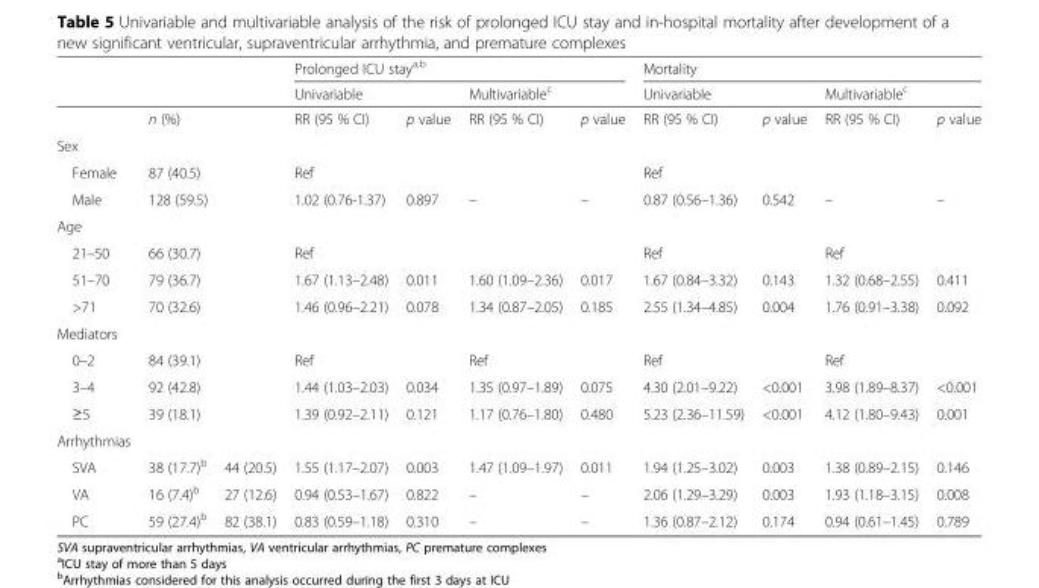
<table><thead><tr><td rowspan="3"></td><td rowspan="2"></td><td rowspan="2"></td><td colspan="4">Prolonged ICU stay<sup>a,b</sup></td><td colspan="4">Mortality</td></tr><tr><td colspan="2">Univariable</td><td colspan="2">Multivariable<sup>c</sup></td><td colspan="2">Univariable</td><td colspan="2">Multivariable<sup>c</sup></td></tr><tr><td colspan="2">n (%)</td><td>RR (95 % CI)</td><td>p value</td><td>RR (95 % CI)</td><td>p value</td><td>RR (95 % CI)</td><td>p value</td><td>RR (95 % CI)</td><td>p value</td></tr></thead><tbody><tr><td colspan="11">Sex</td></tr><tr><td>Female</td><td colspan="2">87 (40.5)</td><td>Ref</td><td></td><td></td><td></td><td>Ref</td><td></td><td></td><td></td></tr><tr><td>Male</td><td colspan="2">128 (59.5)</td><td>1.02 (0.76-1.37)</td><td>0.897</td><td>–</td><td>–</td><td>0.87 (0.56–1.36)</td><td>0.542</td><td>–</td><td>–</td></tr><tr><td colspan="11">Age</td></tr><tr><td>21–50</td><td colspan="2">66 (30.7)</td><td>Ref</td><td></td><td></td><td></td><td>Ref</td><td></td><td>Ref</td><td></td></tr><tr><td>51–70</td><td colspan="2">79 (36.7)</td><td>1.67 (1.13–2.48)</td><td>0.011</td><td>1.60 (1.09–2.36)</td><td>0.017</td><td>1.67 (0.84–3.32)</td><td>0.143</td><td>1.32 (0.68–2.55)</td><td>0.411</td></tr><tr><td>&gt;71</td><td colspan="2">70 (32.6)</td><td>1.46 (0.96–2.21)</td><td>0.078</td><td>1.34 (0.87–2.05)</td><td>0.185</td><td>2.55 (1.34–4.85)</td><td>0.004</td><td>1.76 (0.91–3.38)</td><td>0.092</td></tr><tr><td colspan="11">Mediators</td></tr><tr><td>0–2</td><td colspan="2">84 (39.1)</td><td>Ref</td><td></td><td>Ref</td><td></td><td>Ref</td><td></td><td>Ref</td><td></td></tr><tr><td>3–4</td><td colspan="2">92 (42.8)</td><td>1.44 (1.03–2.03)</td><td>0.034</td><td>1.35 (0.97–1.89)</td><td>0.075</td><td>4.30 (2.01–9.22)</td><td>&lt;0.001</td><td>3.98 (1.89–8.37)</td><td>&lt;0.001</td></tr><tr><td>≥5</td><td colspan="2">39 (18.1)</td><td>1.39 (0.92–2.11)</td><td>0.121</td><td>1.17 (0.76–1.80)</td><td>0.480</td><td>5.23 (2.36–11.59)</td><td>&lt;0.001</td><td>4.12 (1.80–9.43)</td><td>0.001</td></tr><tr><td colspan="11">Arrhythmias</td></tr><tr><td>SVA</td><td>38 (17.7)<sup>b</sup></td><td>44 (20.5)</td><td>1.55 (1.17–2.07)</td><td>0.003</td><td>1.47 (1.09–1.97)</td><td>0.011</td><td>1.94 (1.25–3.02)</td><td>0.003</td><td>1.38 (0.89–2.15)</td><td>0.146</td></tr><tr><td>VA</td><td>16 (7.4)<sup>b</sup></td><td>27 (12.6)</td><td>0.94 (0.53–1.67)</td><td>0.822</td><td>–</td><td>–</td><td>2.06 (1.29–3.29)</td><td>0.003</td><td>1.93 (1.18–3.15)</td><td>0.008</td></tr><tr><td>PC</td><td>59 (27.4)<sup>b</sup></td><td>82 (38.1)</td><td>0.83 (0.59–1.18)</td><td>0.310</td><td>–</td><td>–</td><td>1.36 (0.87–2.12)</td><td>0.174</td><td>0.94 (0.61–1.45)</td><td>0.789</td></tr></tbody></table>